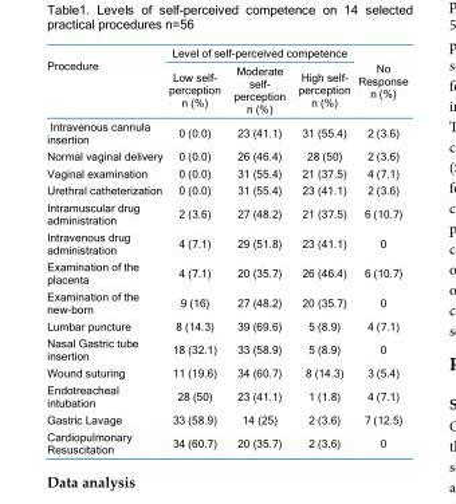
<table><thead><tr><td rowspan="2">Procedure</td><td colspan="3">Level of self-perceived competence</td><td rowspan="2">No Response n (%)</td></tr><tr><td>Low self- perception n (%)</td><td>Moderate self- perception n (%)</td><td>High self- perception n (%)</td></tr></thead><tbody><tr><td>Intravenous cannula insertion</td><td>0 (0.0)</td><td>23 (41.1)</td><td>31 (55.4)</td><td>2 (3.6)</td></tr><tr><td>Normal vaginal delivery</td><td>0 (0.0)</td><td>26 (46.4)</td><td>28 (50)</td><td>2 (3.6)</td></tr><tr><td>Vaginal examination</td><td>0 (0.0)</td><td>31 (55.4)</td><td>21 (37.5)</td><td>4 (7.1)</td></tr><tr><td>Urethral catheterization</td><td>0 (0.0)</td><td>31 (55.4)</td><td>23 (41.1)</td><td>2 (3.6)</td></tr><tr><td>Intramuscular drug administration</td><td>2 (3.6)</td><td>27 (48.2)</td><td>21 (37.5)</td><td>6 (10.7)</td></tr><tr><td>Intravenous drug administration</td><td>4 (7.1)</td><td>29 (51.8)</td><td>23 (41.1)</td><td>0</td></tr><tr><td>Examination of the placenta</td><td>4 (7.1)</td><td>20 (35.7)</td><td>26 (46.4)</td><td>6 (10.7)</td></tr><tr><td>Examination of the new-born</td><td>9 (16)</td><td>27 (48.2)</td><td>20 (35.7)</td><td>0</td></tr><tr><td>Lumbar puncture</td><td>8 (14.3)</td><td>39 (69.6)</td><td>5 (8.9)</td><td>4 (7.1)</td></tr><tr><td>Nasal Gastric tube insertion</td><td>18 (32.1)</td><td>33 (58.9)</td><td>5 (8.9)</td><td>0</td></tr><tr><td>Wound suturing</td><td>11 (19.6)</td><td>34 (60.7)</td><td>8 (14.3)</td><td>3 (5.4)</td></tr><tr><td>Endotreacheal intubation</td><td>28 (50)</td><td>23 (41.1)</td><td>1 (1.8)</td><td>4 (7.1)</td></tr><tr><td>Gastric Lavage</td><td>33 (58.9)</td><td>14 (25)</td><td>2 (3.6)</td><td>7 (12.5)</td></tr><tr><td>Cardiopulmonary Resuscitation</td><td>34 (60.7)</td><td>20 (35.7)</td><td>2 (3.6)</td><td>0</td></tr></tbody></table>